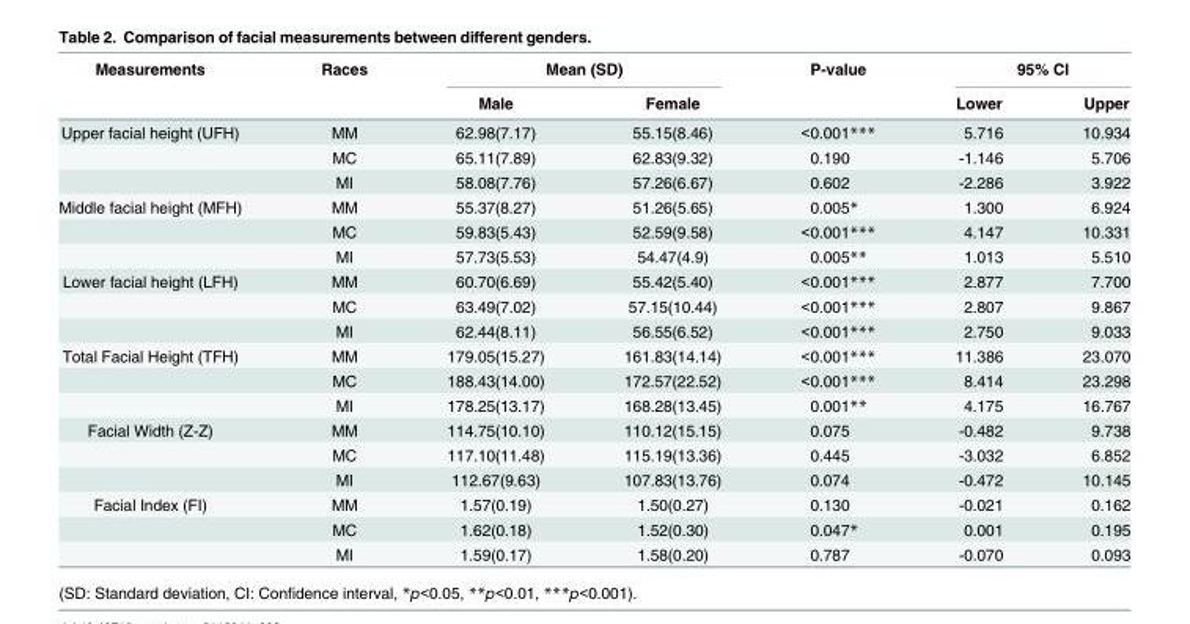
<table><thead><tr><td rowspan="2">Measurements</td><td rowspan="2">Races</td><td colspan="2">Mean (SD)</td><td rowspan="2">P-value</td><td colspan="2">95% CI</td></tr><tr><td>Male</td><td>Female</td><td>Lower</td><td>Upper</td></tr></thead><tbody><tr><td rowspan="3">Upper facial height (UFH)</td><td>MM</td><td>62.98(7.17)</td><td>55.15(8.46)</td><td>&lt;0.001***</td><td>5.716</td><td>10.934</td></tr><tr><td>MC</td><td>65.11(7.89)</td><td>62.83(9.32)</td><td>0.190</td><td>-1.146</td><td>5.706</td></tr><tr><td>MI</td><td>58.08(7.76)</td><td>57.26(6.67)</td><td>0.602</td><td>-2.286</td><td>3.922</td></tr><tr><td rowspan="3">Middle facial height (MFH)</td><td>MM</td><td>55.37(8.27)</td><td>51.26(5.65)</td><td>0.005*</td><td>1.300</td><td>6.924</td></tr><tr><td>MC</td><td>59.83(5.43)</td><td>52.59(9.58)</td><td>&lt;0.001***</td><td>4.147</td><td>10.331</td></tr><tr><td>MI</td><td>57.73(5.53)</td><td>54.47(4.9)</td><td>0.005**</td><td>1.013</td><td>5.510</td></tr><tr><td rowspan="3">Lower facial height (LFH)</td><td>MM</td><td>60.70(6.69)</td><td>55.42(5.40)</td><td>&lt;0.001***</td><td>2.877</td><td>7.700</td></tr><tr><td>MC</td><td>63.49(7.02)</td><td>57.15(10.44)</td><td>&lt;0.001***</td><td>2.807</td><td>9.867</td></tr><tr><td>MI</td><td>62.44(8.11)</td><td>56.55(6.52)</td><td>&lt;0.001***</td><td>2.750</td><td>9.033</td></tr><tr><td rowspan="3">Total Facial Height (TFH)</td><td>MM</td><td>179.05(15.27)</td><td>161.83(14.14)</td><td>&lt;0.001***</td><td>11.386</td><td>23.070</td></tr><tr><td>MC</td><td>188.43(14.00)</td><td>172.57(22.52)</td><td>&lt;0.001***</td><td>8.414</td><td>23.298</td></tr><tr><td>MI</td><td>178.25(13.17)</td><td>168.28(13.45)</td><td>0.001**</td><td>4.175</td><td>16.767</td></tr><tr><td rowspan="3">Facial Width (Z-Z)</td><td>MM</td><td>114.75(10.10)</td><td>110.12(15.15)</td><td>0.075</td><td>-0.482</td><td>9.738</td></tr><tr><td>MC</td><td>117.10(11.48)</td><td>115.19(13.36)</td><td>0.445</td><td>-3.032</td><td>6.852</td></tr><tr><td>MI</td><td>112.67(9.63)</td><td>107.83(13.76)</td><td>0.074</td><td>-0.472</td><td>10.145</td></tr><tr><td rowspan="3">Facial Index (FI)</td><td>MM</td><td>1.57(0.19)</td><td>1.50(0.27)</td><td>0.130</td><td>-0.021</td><td>0.162</td></tr><tr><td>MC</td><td>1.62(0.18)</td><td>1.52(0.30)</td><td>0.047*</td><td>0.001</td><td>0.195</td></tr><tr><td>MI</td><td>1.59(0.17)</td><td>1.58(0.20)</td><td>0.787</td><td>-0.070</td><td>0.093</td></tr></tbody></table>